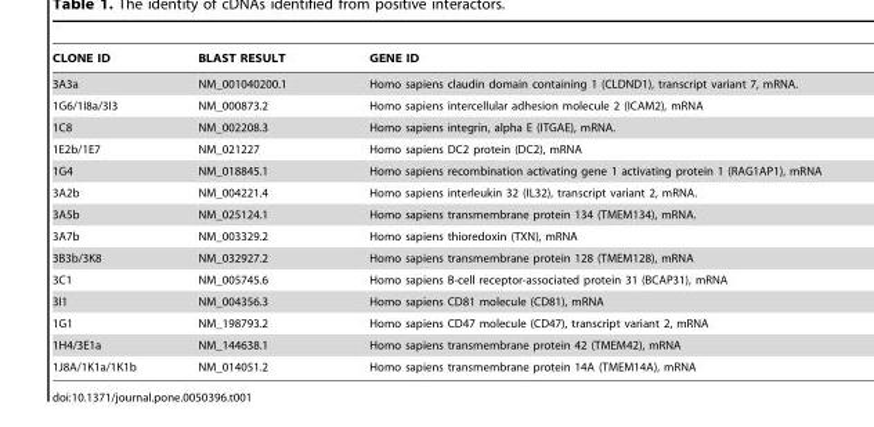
<table><thead><tr><td>CLONE ID</td><td>BLAST RESULT</td><td>GENE ID</td></tr></thead><tbody><tr><td>3A3a</td><td>NM_001040200.1</td><td>Homo sapiens claudin domain containing 1 (CLDND1), transcript variant 7, mRNA.</td></tr><tr><td>1G6/1I8a/3I3</td><td>NM_000873.2</td><td>Homo sapiens intercellular adhesion molecule 2 (ICAM2), mRNA</td></tr><tr><td>1C8</td><td>NM_002208.3</td><td>Homo sapiens integrin, alpha E (ITGAE), mRNA.</td></tr><tr><td>1E2b/1E7</td><td>NM_021227</td><td>Homo sapiens DC2 protein (DC2), mRNA</td></tr><tr><td>1G4</td><td>NM_018845.1</td><td>Homo sapiens recombination activating gene 1 activating protein 1 (RAG1AP1), mRNA</td></tr><tr><td>3A2b</td><td>NM_004221.4</td><td>Homo sapiens interleukin 32 (IL32), transcript variant 2, mRNA.</td></tr><tr><td>3A5b</td><td>NM_025124.1</td><td>Homo sapiens transmembrane protein 134 (TMEM134), mRNA.</td></tr><tr><td>3A7b</td><td>NM_003329.2</td><td>Homo sapiens thioredoxin (TXN), mRNA</td></tr><tr><td>3B3b/3K8</td><td>NM_032927.2</td><td>Homo sapiens transmembrane protein 128 (TMEM128), mRNA</td></tr><tr><td>3C1</td><td>NM_005745.6</td><td>Homo sapiens B-cell receptor-associated protein 31 (BCAP31), mRNA</td></tr><tr><td>3I1</td><td>NM_004356.3</td><td>Homo sapiens CD81 molecule (CD81), mRNA</td></tr><tr><td>1G1</td><td>NM_198793.2</td><td>Homo sapiens CD47 molecule (CD47), transcript variant 2, mRNA</td></tr><tr><td>1H4/3E1a</td><td>NM_144638.1</td><td>Homo sapiens transmembrane protein 42 (TMEM42), mRNA</td></tr><tr><td>1J8A/1K1a/1K1b</td><td>NM_014051.2</td><td>Homo sapiens transmembrane protein 14A (TMEM14A), mRNA</td></tr></tbody></table>